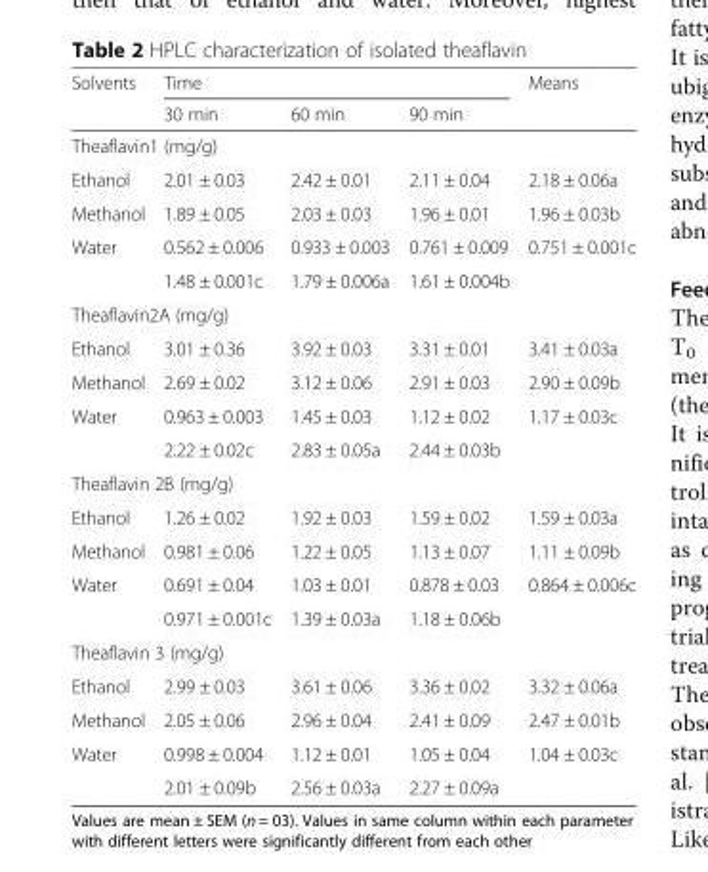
<table><thead><tr><td rowspan="2">Solvents</td><td colspan="3">Time</td><td rowspan="2">Means</td></tr><tr><td>30 min</td><td>60 min</td><td>90 min</td></tr></thead><tbody><tr><td colspan="5">Theaflavin1 (mg/g)</td></tr><tr><td>Ethanol</td><td>2.01 ± 0.03</td><td>2.42 ± 0.01</td><td>2.11 ± 0.04</td><td>2.18 ± 0.06a</td></tr><tr><td>Methanol</td><td>1.89 ± 0.05</td><td>2.03 ± 0.03</td><td>1.96 ± 0.01</td><td>1.96 ± 0.03b</td></tr><tr><td rowspan="2">Water</td><td>0.562 ± 0.006</td><td>0.933 ± 0.003</td><td>0.761 ± 0.009</td><td>0.751 ± 0.001c</td></tr><tr><td>1.48 ± 0.001c</td><td>1.79 ± 0.006a</td><td>1.61 ± 0.004b</td><td></td></tr><tr><td colspan="5">Theaflavin2A (mg/g)</td></tr><tr><td>Ethanol</td><td>3.01 ± 0.36</td><td>3.92 ± 0.03</td><td>3.31 ± 0.01</td><td>3.41 ± 0.03a</td></tr><tr><td>Methanol</td><td>2.69 ± 0.02</td><td>3.12 ± 0.06</td><td>2.91 ± 0.03</td><td>2.90 ± 0.09b</td></tr><tr><td rowspan="2">Water</td><td>0.963 ± 0.003</td><td>1.45 ± 0.03</td><td>1.12 ± 0.02</td><td>1.17 ± 0.03c</td></tr><tr><td>2.22 ± 0.02c</td><td>2.83 ± 0.05a</td><td>2.44 ± 0.03b</td><td></td></tr><tr><td colspan="5">Theaflavin 2B (mg/g)</td></tr><tr><td>Ethanol</td><td>1.26 ± 0.02</td><td>1.92 ± 0.03</td><td>1.59 ± 0.02</td><td>1.59 ± 0.03a</td></tr><tr><td>Methanol</td><td>0.981 ± 0.06</td><td>1.22 ± 0.05</td><td>1.13 ± 0.07</td><td>1.11 ± 0.09b</td></tr><tr><td rowspan="2">Water</td><td>0.691 ± 0.04</td><td>1.03 ± 0.01</td><td>0.878 ± 0.03</td><td>0.864 ± 0.006c</td></tr><tr><td>0.971 ± 0.001c</td><td>1.39 ± 0.03a</td><td>1.18 ± 0.06b</td><td></td></tr><tr><td colspan="5">Theaflavin 3 (mg/g)</td></tr><tr><td>Ethanol</td><td>2.99 ± 0.03</td><td>3.61 ± 0.06</td><td>3.36 ± 0.02</td><td>3.32 ± 0.06a</td></tr><tr><td>Methanol</td><td>2.05 ± 0.06</td><td>2.96 ± 0.04</td><td>2.41 ± 0.09</td><td>2.47 ± 0.01b</td></tr><tr><td rowspan="2">Water</td><td>0.998 ± 0.004</td><td>1.12 ± 0.01</td><td>1.05 ± 0.04</td><td>1.04 ± 0.03c</td></tr><tr><td>2.01 ± 0.09b</td><td>2.56 ± 0.03a</td><td>2.27 ± 0.09a</td><td></td></tr></tbody></table>